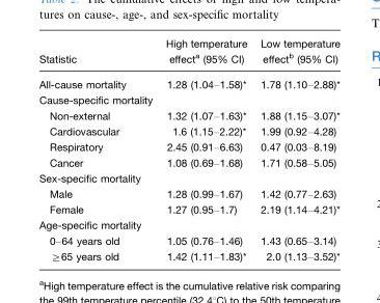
<table><thead><tr><td>Statistic</td><td>High temperature effect<sup>a</sup> (95% CI)</td><td>Low temperature effect<sup>b</sup> (95% CI)</td></tr></thead><tbody><tr><td>All-cause mortality</td><td>1.28 (1.04–1.58)*</td><td>1.78 (1.10–2.88)*</td></tr><tr><td colspan="3">Cause-specific mortality</td></tr><tr><td>Non-external</td><td>1.32 (1.07–1.63)*</td><td>1.88 (1.15–3.07)*</td></tr><tr><td>Cardiovascular</td><td>1.6 (1.15–2.22)*</td><td>1.99 (0.92–4.28)</td></tr><tr><td>Respiratory</td><td>2.45 (0.91–6.63)</td><td>0.47 (0.03–8.19)</td></tr><tr><td>Cancer</td><td>1.08 (0.69–1.68)</td><td>1.71 (0.58–5.05)</td></tr><tr><td colspan="3">Sex-specific mortality</td></tr><tr><td>Male</td><td>1.28 (0.99–1.67)</td><td>1.42 (0.77–2.63)</td></tr><tr><td>Female</td><td>1.27 (0.95–1.7)</td><td>2.19 (1.14–4.21)*</td></tr><tr><td colspan="3">Age-specific mortality</td></tr><tr><td>0–64 years old</td><td>1.05 (0.76–1.46)</td><td>1.43 (0.65–3.14)</td></tr><tr><td>≥65 years old</td><td>1.42 (1.11–1.83)*</td><td>2.0 (1.13–3.52)*</td></tr></tbody></table>